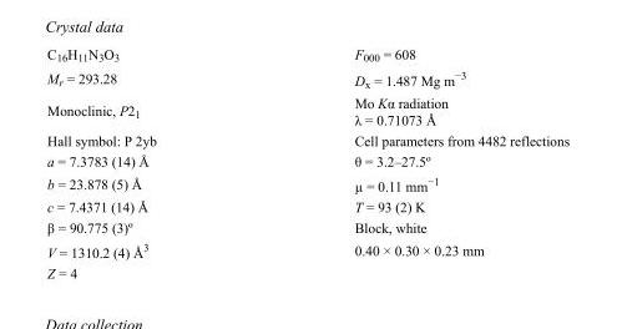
<table><tbody><tr><td>C<sub>16</sub>H<sub>11</sub>N<sub>3</sub>O<sub>3</sub></td><td>F<sub>000</sub> = 608</td></tr><tr><td>M<sub>r</sub> = 293.28</td><td>D<sub>x</sub> = 1.487 Mg m<sup>−3</sup></td></tr><tr><td>Monoclinic, P2<sub>1</sub></td><td>Mo Kα radiation λ = 0.71073 Å</td></tr><tr><td>Hall symbol: P 2yb</td><td>Cell parameters from 4482 reflections</td></tr><tr><td>a = 7.3783 (14) Å</td><td>θ = 3.2–27.5º</td></tr><tr><td>b = 23.878 (5) Å</td><td>µ = 0.11 mm<sup>−1</sup></td></tr><tr><td>c = 7.4371 (14) Å</td><td>T = 93 (2) K</td></tr><tr><td>β = 90.775 (3)º</td><td>Block, white</td></tr><tr><td>V = 1310.2 (4) Å<sup>3</sup></td><td>0.40 × 0.30 × 0.23 mm</td></tr><tr><td>Z = 4</td><td></td></tr></tbody></table>